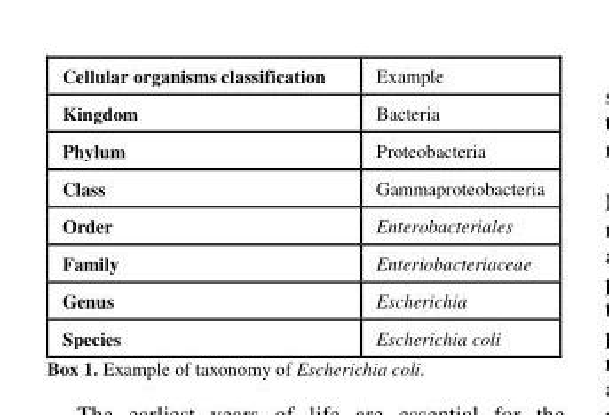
<table><tbody><tr><td>Cellular organisms classification</td><td>Example</td></tr><tr><td>Kingdom</td><td>Bacteria</td></tr><tr><td>Phylum</td><td>Proteobacteria</td></tr><tr><td>Class</td><td>Gammaproteobacteria</td></tr><tr><td>Order</td><td>Enterobacteriales</td></tr><tr><td>Family</td><td>Enteriobacteriaceae</td></tr><tr><td>Genus</td><td>Escherichia</td></tr><tr><td>Species</td><td>Escherichia coli</td></tr></tbody></table>